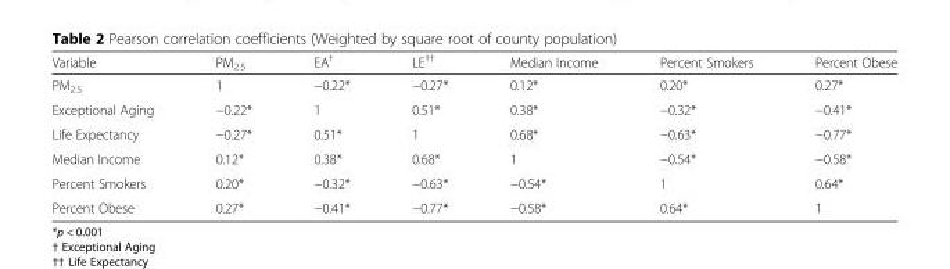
<table><thead><tr><td>Variable</td><td>PM<sub>2.5</sub></td><td>EA<sup>†</sup></td><td>LE<sup>††</sup></td><td>Median Income</td><td>Percent Smokers</td><td>Percent Obese</td></tr></thead><tbody><tr><td>PM<sub>2.5</sub></td><td>1</td><td>−0.22*</td><td>−0.27*</td><td>0.12*</td><td>0.20*</td><td>0.27*</td></tr><tr><td>Exceptional Aging</td><td>−0.22*</td><td>1</td><td>0.51*</td><td>0.38*</td><td>−0.32*</td><td>−0.41*</td></tr><tr><td>Life Expectancy</td><td>−0.27*</td><td>0.51*</td><td>1</td><td>0.68*</td><td>−0.63*</td><td>−0.77*</td></tr><tr><td>Median Income</td><td>0.12*</td><td>0.38*</td><td>0.68*</td><td>1</td><td>−0.54*</td><td>−0.58*</td></tr><tr><td>Percent Smokers</td><td>0.20*</td><td>−0.32*</td><td>−0.63*</td><td>−0.54*</td><td>1</td><td>0.64*</td></tr><tr><td>Percent Obese</td><td>0.27*</td><td>−0.41*</td><td>−0.77*</td><td>−0.58*</td><td>0.64*</td><td>1</td></tr></tbody></table>